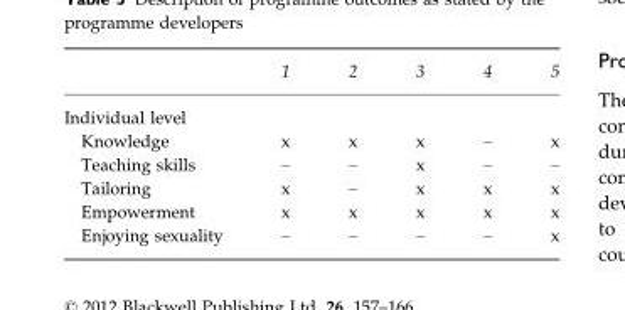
<table><thead><tr><td></td><td>1</td><td>2</td><td>3</td><td>4</td><td>5</td></tr></thead><tbody><tr><td colspan="6">Individual level</td></tr><tr><td>Knowledge</td><td>x</td><td>x</td><td>x</td><td>–</td><td>x</td></tr><tr><td>Teaching skills</td><td>–</td><td>–</td><td>x</td><td>–</td><td>–</td></tr><tr><td>Tailoring</td><td>x</td><td>–</td><td>x</td><td>x</td><td>x</td></tr><tr><td>Empowerment</td><td>x</td><td>x</td><td>x</td><td>x</td><td>x</td></tr><tr><td>Enjoying sexuality</td><td>–</td><td>–</td><td>–</td><td>–</td><td>x</td></tr></tbody></table>